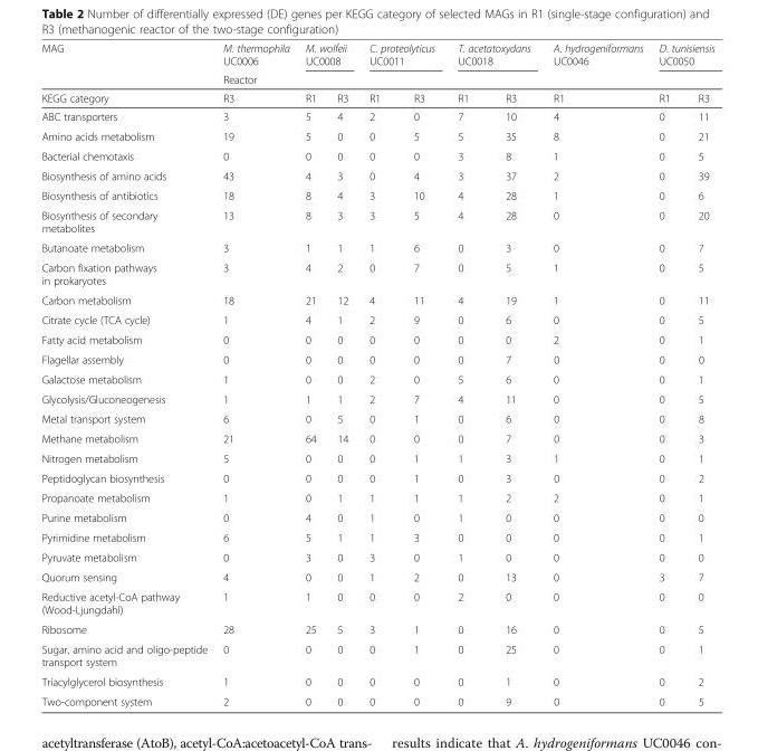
<table><thead><tr><td rowspan="3">MAG KEGG category</td><td>M. thermophila UC0006</td><td colspan="2">M. wolfeii UC0008</td><td colspan="2">C. proteolyticus UC0011</td><td colspan="2">T. acetatoxydans UC0018</td><td>A. hydrogeniformans UC0046</td><td colspan="2">D. tunisiensis UC0050</td></tr><tr><td colspan="10">Reactor</td></tr><tr><td>R3</td><td>R1</td><td>R3</td><td>R1</td><td>R3</td><td>R1</td><td>R3</td><td>R1</td><td>R1</td><td>R3</td></tr></thead><tbody><tr><td>ABC transporters</td><td>3</td><td>5</td><td>4</td><td>2</td><td>0</td><td>7</td><td>10</td><td>4</td><td>0</td><td>11</td></tr><tr><td>Amino acids metabolism</td><td>19</td><td>5</td><td>0</td><td>0</td><td>5</td><td>5</td><td>35</td><td>8</td><td>0</td><td>21</td></tr><tr><td>Bacterial chemotaxis</td><td>0</td><td>0</td><td>0</td><td>0</td><td>0</td><td>3</td><td>8</td><td>1</td><td>0</td><td>5</td></tr><tr><td>Biosynthesis of amino acids</td><td>43</td><td>4</td><td>3</td><td>0</td><td>4</td><td>3</td><td>37</td><td>2</td><td>0</td><td>39</td></tr><tr><td>Biosynthesis of antibiotics</td><td>18</td><td>8</td><td>4</td><td>3</td><td>10</td><td>4</td><td>28</td><td>1</td><td>0</td><td>6</td></tr><tr><td>Biosynthesis of secondary metabolites</td><td>13</td><td>8</td><td>3</td><td>3</td><td>5</td><td>4</td><td>28</td><td>0</td><td>0</td><td>20</td></tr><tr><td>Butanoate metabolism</td><td>3</td><td>1</td><td>1</td><td>1</td><td>6</td><td>0</td><td>3</td><td>0</td><td>0</td><td>7</td></tr><tr><td>Carbon fixation pathways in prokaryotes</td><td>3</td><td>4</td><td>2</td><td>0</td><td>7</td><td>0</td><td>5</td><td>1</td><td>0</td><td>5</td></tr><tr><td>Carbon metabolism</td><td>18</td><td>21</td><td>12</td><td>4</td><td>11</td><td>4</td><td>19</td><td>1</td><td>0</td><td>11</td></tr><tr><td>Citrate cycle (TCA cycle)</td><td>1</td><td>4</td><td>1</td><td>2</td><td>9</td><td>0</td><td>6</td><td>0</td><td>0</td><td>5</td></tr><tr><td>Fatty acid metabolism</td><td>0</td><td>0</td><td>0</td><td>0</td><td>0</td><td>0</td><td>0</td><td>2</td><td>0</td><td>1</td></tr><tr><td>Flagellar assembly</td><td>0</td><td>0</td><td>0</td><td>0</td><td>0</td><td>0</td><td>7</td><td>0</td><td>0</td><td>0</td></tr><tr><td>Galactose metabolism</td><td>1</td><td>0</td><td>0</td><td>2</td><td>0</td><td>5</td><td>6</td><td>0</td><td>0</td><td>1</td></tr><tr><td>Glycolysis/Gluconeogenesis</td><td>1</td><td>1</td><td>1</td><td>2</td><td>7</td><td>4</td><td>11</td><td>0</td><td>0</td><td>5</td></tr><tr><td>Metal transport system</td><td>6</td><td>0</td><td>5</td><td>0</td><td>1</td><td>0</td><td>6</td><td>0</td><td>0</td><td>8</td></tr><tr><td>Methane metabolism</td><td>21</td><td>64</td><td>14</td><td>0</td><td>0</td><td>0</td><td>7</td><td>0</td><td>0</td><td>3</td></tr><tr><td>Nitrogen metabolism</td><td>5</td><td>0</td><td>0</td><td>0</td><td>1</td><td>1</td><td>3</td><td>1</td><td>0</td><td>1</td></tr><tr><td>Peptidoglycan biosynthesis</td><td>0</td><td>0</td><td>0</td><td>0</td><td>1</td><td>0</td><td>3</td><td>0</td><td>0</td><td>2</td></tr><tr><td>Propanoate metabolism</td><td>1</td><td>0</td><td>1</td><td>1</td><td>1</td><td>1</td><td>2</td><td>2</td><td>0</td><td>1</td></tr><tr><td>Purine metabolism</td><td>0</td><td>4</td><td>0</td><td>1</td><td>0</td><td>1</td><td>0</td><td>0</td><td>0</td><td>0</td></tr><tr><td>Pyrimidine metabolism</td><td>6</td><td>5</td><td>1</td><td>1</td><td>3</td><td>0</td><td>0</td><td>0</td><td>0</td><td>1</td></tr><tr><td>Pyruvate metabolism</td><td>0</td><td>3</td><td>0</td><td>3</td><td>0</td><td>1</td><td>0</td><td>0</td><td>0</td><td>0</td></tr><tr><td>Quorum sensing</td><td>4</td><td>0</td><td>0</td><td>1</td><td>2</td><td>0</td><td>13</td><td>0</td><td>3</td><td>7</td></tr><tr><td>Reductive acetyl-CoA pathway (Wood-Ljungdahl)</td><td>1</td><td>1</td><td>0</td><td>0</td><td>0</td><td>2</td><td>0</td><td>0</td><td>0</td><td>0</td></tr><tr><td>Ribosome</td><td>28</td><td>25</td><td>5</td><td>3</td><td>1</td><td>0</td><td>16</td><td>0</td><td>0</td><td>5</td></tr><tr><td>Sugar, amino acid and oligo-peptide transport system</td><td>0</td><td>0</td><td>0</td><td>0</td><td>1</td><td>0</td><td>25</td><td>0</td><td>0</td><td>1</td></tr><tr><td>Triacylglycerol biosynthesis</td><td>1</td><td>0</td><td>0</td><td>0</td><td>0</td><td>0</td><td>1</td><td>0</td><td>0</td><td>2</td></tr><tr><td>Two-component system</td><td>2</td><td>0</td><td>0</td><td>0</td><td>0</td><td>0</td><td>9</td><td>0</td><td>0</td><td>5</td></tr></tbody></table>